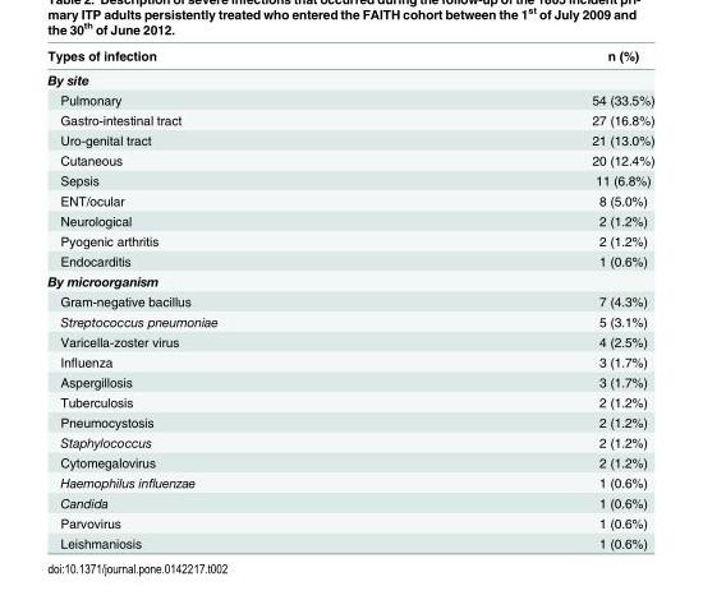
<table><thead><tr><td>Types of infection</td><td>n (%)</td></tr></thead><tbody><tr><td colspan="2">By site</td></tr><tr><td>Pulmonary</td><td>54 (33.5%)</td></tr><tr><td>Gastro-intestinal tract</td><td>27 (16.8%)</td></tr><tr><td>Uro-genital tract</td><td>21 (13.0%)</td></tr><tr><td>Cutaneous</td><td>20 (12.4%)</td></tr><tr><td>Sepsis</td><td>11 (6.8%)</td></tr><tr><td>ENT/ocular</td><td>8 (5.0%)</td></tr><tr><td>Neurological</td><td>2 (1.2%)</td></tr><tr><td>Pyogenic arthritis</td><td>2 (1.2%)</td></tr><tr><td>Endocarditis</td><td>1 (0.6%)</td></tr><tr><td colspan="2">By microorganism</td></tr><tr><td>Gram-negative bacillus</td><td>7 (4.3%)</td></tr><tr><td>Streptococcus pneumoniae</td><td>5 (3.1%)</td></tr><tr><td>Varicella-zoster virus</td><td>4 (2.5%)</td></tr><tr><td>Influenza</td><td>3 (1.7%)</td></tr><tr><td>Aspergillosis</td><td>3 (1.7%)</td></tr><tr><td>Tuberculosis</td><td>2 (1.2%)</td></tr><tr><td>Pneumocystosis</td><td>2 (1.2%)</td></tr><tr><td>Staphylococcus</td><td>2 (1.2%)</td></tr><tr><td>Cytomegalovirus</td><td>2 (1.2%)</td></tr><tr><td>Haemophilus influenzae</td><td>1 (0.6%)</td></tr><tr><td>Candida</td><td>1 (0.6%)</td></tr><tr><td>Parvovirus</td><td>1 (0.6%)</td></tr><tr><td>Leishmaniosis</td><td>1 (0.6%)</td></tr></tbody></table>